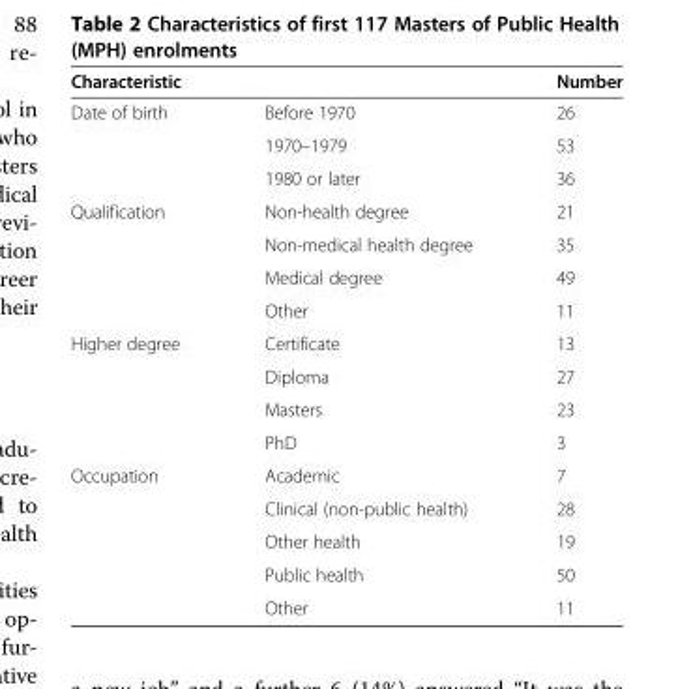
<table><thead><tr><td>Characteristic</td><td></td><td>Number</td></tr></thead><tbody><tr><td rowspan="3">Date of birth</td><td>Before 1970</td><td>26</td></tr><tr><td>1970–1979</td><td>53</td></tr><tr><td>1980 or later</td><td>36</td></tr><tr><td rowspan="4">Qualification</td><td>Non-health degree</td><td>21</td></tr><tr><td>Non-medical health degree</td><td>35</td></tr><tr><td>Medical degree</td><td>49</td></tr><tr><td>Other</td><td>11</td></tr><tr><td rowspan="4">Higher degree</td><td>Certificate</td><td>13</td></tr><tr><td>Diploma</td><td>27</td></tr><tr><td>Masters</td><td>23</td></tr><tr><td>PhD</td><td>3</td></tr><tr><td rowspan="5">Occupation</td><td>Academic</td><td>7</td></tr><tr><td>Clinical (non-public health)</td><td>28</td></tr><tr><td>Other health</td><td>19</td></tr><tr><td>Public health</td><td>50</td></tr><tr><td>Other</td><td>11</td></tr></tbody></table>